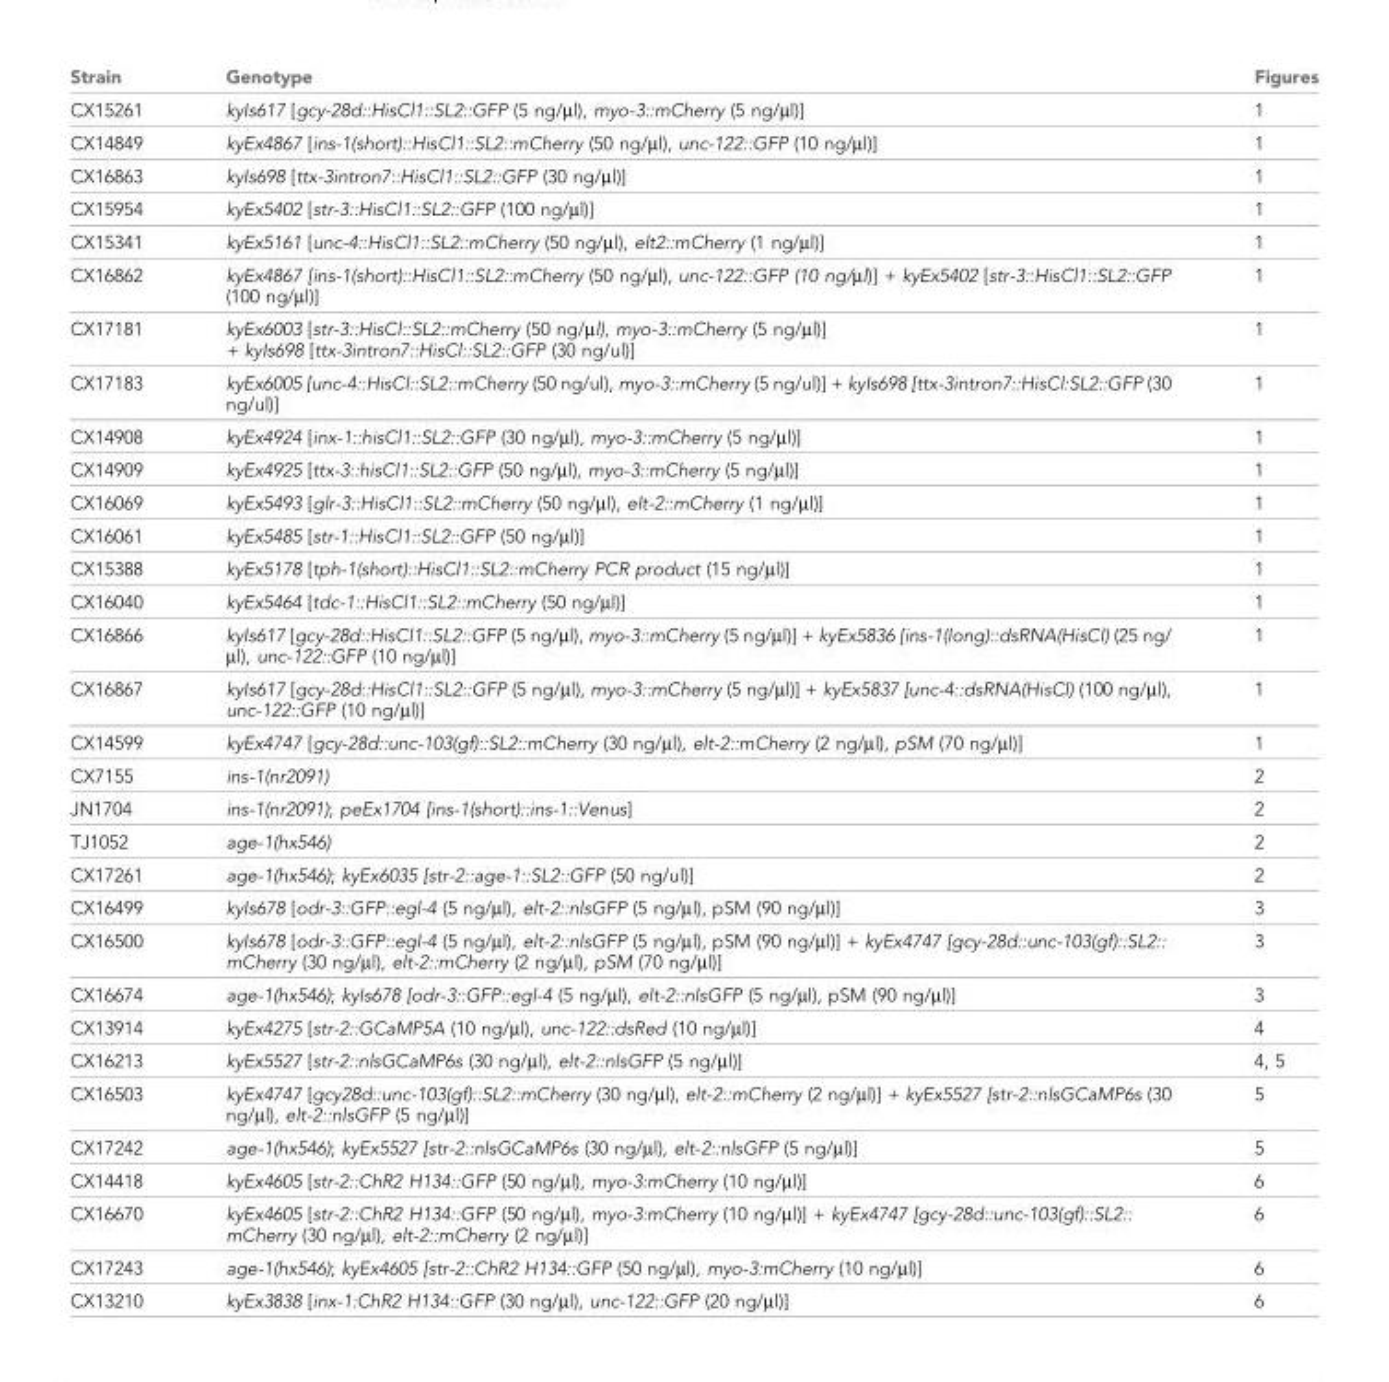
<table><thead><tr><td>Strain</td><td>Genotype</td><td>Figures</td></tr></thead><tbody><tr><td>CX15261</td><td>kyIs617 [gcy-28d::HisCl1::SL2::GFP (5 ng/µl), myo-3::mCherry (5 ng/µl)]</td><td>1</td></tr><tr><td>CX14849</td><td>kyEx4867 [ins-1(short)::HisCl1::SL2::mCherry (50 ng/µl), unc-122::GFP (10 ng/µl)]</td><td>1</td></tr><tr><td>CX16863</td><td>kyIs698 [ttx-3intron7::HisCl1::SL2::GFP (30 ng/µl)]</td><td>1</td></tr><tr><td>CX15954</td><td>kyEx5402 [str-3::HisCl1::SL2::GFP (100 ng/µl)]</td><td>1</td></tr><tr><td>CX15341</td><td>kyEx5161 [unc-4::HisCl1::SL2::mCherry (50 ng/µl), elt2::mCherry (1 ng/µl)]</td><td>1</td></tr><tr><td>CX16862</td><td>kyEx4867 [ins-1(short)::HisCl1::SL2::mCherry (50 ng/µl), unc-122::GFP (10 ng/µl)] + kyEx5402 [str-3::HisCl1::SL2::GFP (100 ng/µl)]</td><td>1</td></tr><tr><td>CX17181</td><td>kyEx6003 [str-3::HisCl::SL2::mCherry (50 ng/µl), myo-3::mCherry (5 ng/µl)] + kyIs698 [ttx-3intron7::HisCl::SL2::GFP (30 ng/ul)]</td><td>1</td></tr><tr><td>CX17183</td><td>kyEx6005 [unc-4::HisCl::SL2::mCherry (50 ng/ul), myo-3::mCherry (5 ng/ul)] + kyIs698 [ttx-3intron7::HisCl:SL2::GFP (30 ng/ul)]</td><td>1</td></tr><tr><td>CX14908</td><td>kyEx4924 [inx-1::hisCl1::SL2::GFP (30 ng/µl), myo-3::mCherry (5 ng/µl)]</td><td>1</td></tr><tr><td>CX14909</td><td>kyEx4925 [ttx-3::hisCl1::SL2::GFP (50 ng/µl), myo-3::mCherry (5 ng/µl)]</td><td>1</td></tr><tr><td>CX16069</td><td>kyEx5493 [glr-3::HisCl1::SL2::mCherry (50 ng/µl), elt-2::mCherry (1 ng/µl)]</td><td>1</td></tr><tr><td>CX16061</td><td>kyEx5485 [str-1::HisCl1::SL2::GFP (50 ng/µl)]</td><td>1</td></tr><tr><td>CX15388</td><td>kyEx5178 [tph-1(short)::HisCl1::SL2::mCherry PCR product (15 ng/µl)]</td><td>1</td></tr><tr><td>CX16040</td><td>kyEx5464 [tdc-1::HisCl1::SL2::mCherry (50 ng/µl)]</td><td>1</td></tr><tr><td>CX16866</td><td>kyIs617 [gcy-28d::HisCl1::SL2::GFP (5 ng/µl), myo-3::mCherry (5 ng/µl)] + kyEx5836 [ins-1(long)::dsRNA(HisCl) (25 ng/ µl), unc-122::GFP (10 ng/µl)]</td><td>1</td></tr><tr><td>CX16867</td><td>kyIs617 [gcy-28d::HisCl1::SL2::GFP (5 ng/µl), myo-3::mCherry (5 ng/µl)] + kyEx5837 [unc-4::dsRNA(HisCl) (100 ng/µl), unc-122::GFP (10 ng/µl)]</td><td>1</td></tr><tr><td>CX14599</td><td>kyEx4747 [gcy-28d::unc-103(gf)::SL2::mCherry (30 ng/µl), elt-2::mCherry (2 ng/µl), pSM (70 ng/µl)]</td><td>1</td></tr><tr><td>CX7155</td><td>ins-1(nr2091)</td><td>2</td></tr><tr><td>JN1704</td><td>ins-1(nr2091); peEx1704 [ins-1(short)::ins-1::Venus]</td><td>2</td></tr><tr><td>TJ1052</td><td>age-1(hx546)</td><td>2</td></tr><tr><td>CX17261</td><td>age-1(hx546); kyEx6035 [str-2::age-1::SL2::GFP (50 ng/ul)]</td><td>2</td></tr><tr><td>CX16499</td><td>kyIs678 [odr-3::GFP::egl-4 (5 ng/µl), elt-2::nlsGFP (5 ng/µl), pSM (90 ng/µl)]</td><td>3</td></tr><tr><td>CX16500</td><td>kyIs678 [odr-3::GFP::egl-4 (5 ng/µl), elt-2::nlsGFP (5 ng/µl), pSM (90 ng/µl)] + kyEx4747 [gcy-28d::unc-103(gf)::SL2:: mCherry (30 ng/µl), elt-2::mCherry (2 ng/µl), pSM (70 ng/µl)]</td><td>3</td></tr><tr><td>CX16674</td><td>age-1(hx546); kyIs678 [odr-3::GFP::egl-4 (5 ng/µl), elt-2::nlsGFP (5 ng/µl), pSM (90 ng/µl)]</td><td>3</td></tr><tr><td>CX13914</td><td>kyEx4275 [str-2::GCaMP5A (10 ng/µl), unc-122::dsRed (10 ng/µl)]</td><td>4</td></tr><tr><td>CX16213</td><td>kyEx5527 [str-2::nlsGCaMP6s (30 ng/µl), elt-2::nlsGFP (5 ng/µl)]</td><td>4, 5</td></tr><tr><td>CX16503</td><td>kyEx4747 [gcy28d::unc-103(gf)::SL2::mCherry (30 ng/µl), elt-2::mCherry (2 ng/µl)] + kyEx5527 [str-2::nlsGCaMP6s (30 ng/µl), elt-2::nlsGFP (5 ng/µl)]</td><td>5</td></tr><tr><td>CX17242</td><td>age-1(hx546); kyEx5527 [str-2::nlsGCaMP6s (30 ng/µl), elt-2::nlsGFP (5 ng/µl)]</td><td>5</td></tr><tr><td>CX14418</td><td>kyEx4605 [str-2::ChR2 H134::GFP (50 ng/µl), myo-3:mCherry (10 ng/µl)]</td><td>6</td></tr><tr><td>CX16670</td><td>kyEx4605 [str-2::ChR2 H134::GFP (50 ng/µl), myo-3:mCherry (10 ng/µl)] + kyEx4747 [gcy-28d::unc-103(gf)::SL2:: mCherry (30 ng/µl), elt-2::mCherry (2 ng/µl)]</td><td>6</td></tr><tr><td>CX17243</td><td>age-1(hx546); kyEx4605 [str-2::ChR2 H134::GFP (50 ng/µl), myo-3:mCherry (10 ng/µl)]</td><td>6</td></tr><tr><td>CX13210</td><td>kyEx3838 [inx-1:ChR2 H134::GFP (30 ng/µl), unc-122::GFP (20 ng/µl)]</td><td>6</td></tr></tbody></table>